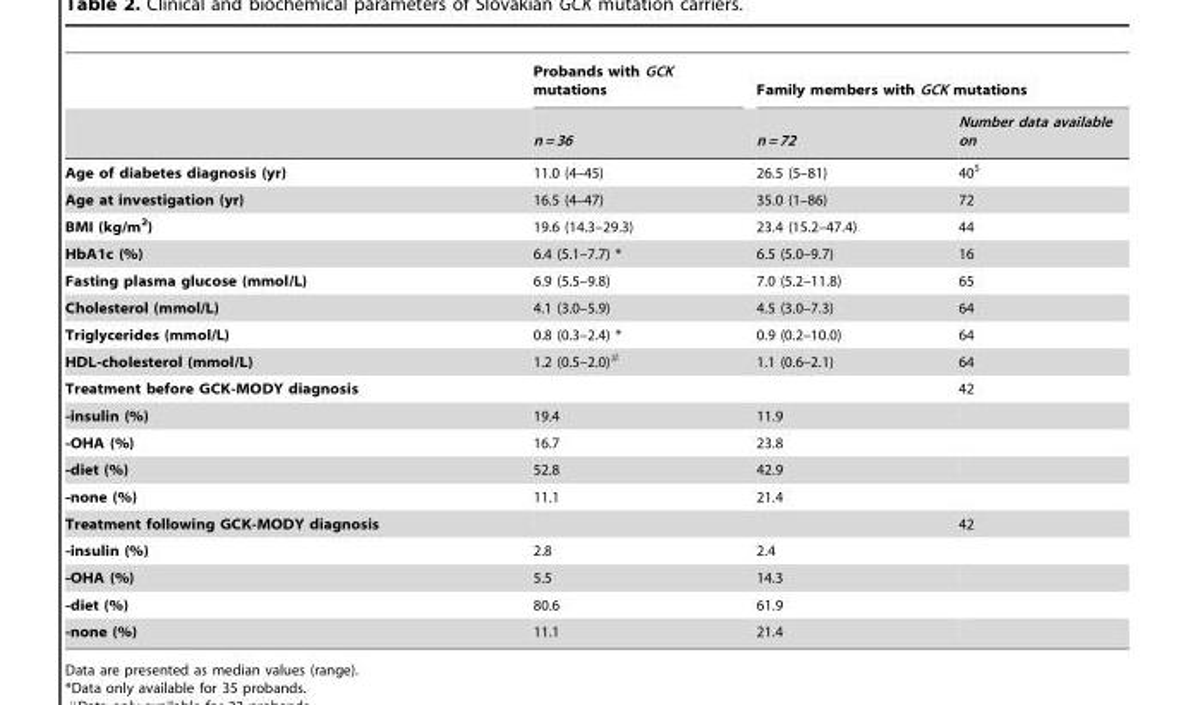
<table><thead><tr><td rowspan="2"></td><td rowspan="2">Probands with GCK mutations n = 36</td><td colspan="2">Family members with GCK mutations</td></tr><tr><td>n = 72</td><td>Number data available on</td></tr></thead><tbody><tr><td>Age of diabetes diagnosis (yr)</td><td>11.0 (4–45)</td><td>26.5 (5–81)</td><td>40$</td></tr><tr><td>Age at investigation (yr)</td><td>16.5 (4–47)</td><td>35.0 (1–86)</td><td>72</td></tr><tr><td>BMI (kg/m<sup>2</sup>)</td><td>19.6 (14.3–29.3)</td><td>23.4 (15.2–47.4)</td><td>44</td></tr><tr><td>HbA1c (%)</td><td>6.4 (5.1–7.7) *</td><td>6.5 (5.0–9.7)</td><td>16</td></tr><tr><td>Fasting plasma glucose (mmol/L)</td><td>6.9 (5.5–9.8)</td><td>7.0 (5.2–11.8)</td><td>65</td></tr><tr><td>Cholesterol (mmol/L)</td><td>4.1 (3.0–5.9)</td><td>4.5 (3.0–7.3)</td><td>64</td></tr><tr><td>Triglycerides (mmol/L)</td><td>0.8 (0.3–2.4) *</td><td>0.9 (0.2–10.0)</td><td>64</td></tr><tr><td>HDL-cholesterol (mmol/L)</td><td>1.2 (0.5–2.0)#</td><td>1.1 (0.6–2.1)</td><td>64</td></tr><tr><td>Treatment before GCK-MODY diagnosis</td><td></td><td></td><td>42</td></tr><tr><td>-insulin (%)</td><td>19.4</td><td>11.9</td><td></td></tr><tr><td>-OHA (%)</td><td>16.7</td><td>23.8</td><td></td></tr><tr><td>-diet (%)</td><td>52.8</td><td>42.9</td><td></td></tr><tr><td>-none (%)</td><td>11.1</td><td>21.4</td><td></td></tr><tr><td>Treatment following GCK-MODY diagnosis</td><td></td><td></td><td>42</td></tr><tr><td>-insulin (%)</td><td>2.8</td><td>2.4</td><td></td></tr><tr><td>-OHA (%)</td><td>5.5</td><td>14.3</td><td></td></tr><tr><td>-diet (%)</td><td>80.6</td><td>61.9</td><td></td></tr><tr><td>-none (%)</td><td>11.1</td><td>21.4</td><td></td></tr></tbody></table>